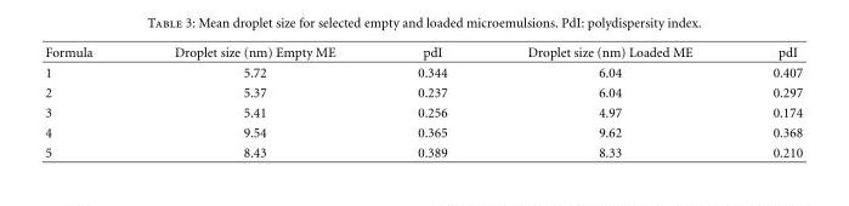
<table><thead><tr><td>Formula</td><td>Droplet size (nm) Empty ME</td><td>pdI</td><td>Droplet size (nm) Loaded ME</td><td>pdI</td></tr></thead><tbody><tr><td>1</td><td>5.72</td><td>0.344</td><td>6.04</td><td>0.407</td></tr><tr><td>2</td><td>5.37</td><td>0.237</td><td>6.04</td><td>0.297</td></tr><tr><td>3</td><td>5.41</td><td>0.256</td><td>4.97</td><td>0.174</td></tr><tr><td>4</td><td>9.54</td><td>0.365</td><td>9.62</td><td>0.368</td></tr><tr><td>5</td><td>8.43</td><td>0.389</td><td>8.33</td><td>0.210</td></tr></tbody></table>